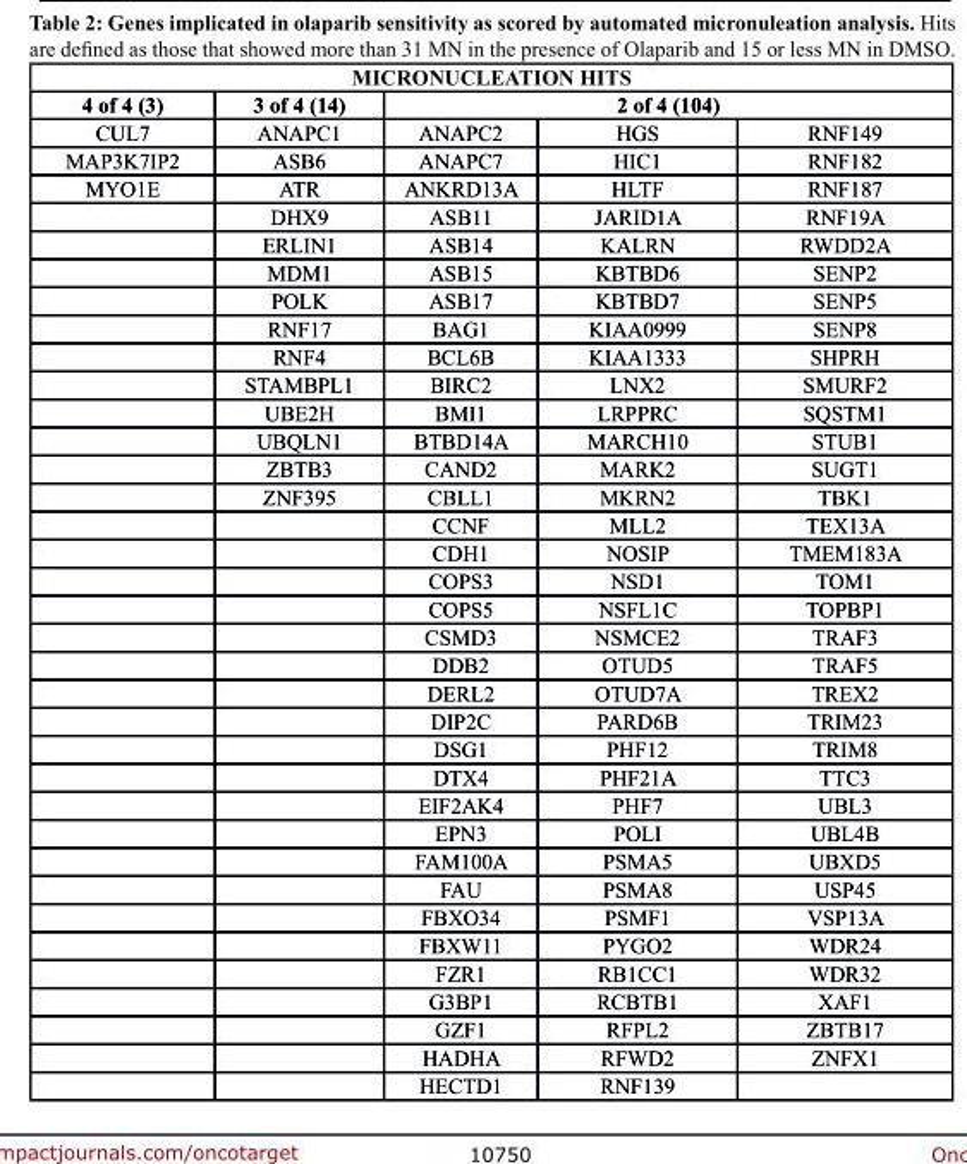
<table><thead><tr><td colspan="5">MIcronucleAtIon HIts</td></tr><tr><td rowspan="2">4 of 4 (3) CUL7</td><td rowspan="2">3 of 4 (14) ANAPC1</td><td colspan="3">2 of 4 (104)</td></tr><tr><td>ANAPC2</td><td>HGS</td><td>RNF149</td></tr></thead><tbody><tr><td>MAP3K7IP2</td><td>ASB6</td><td>ANAPC7</td><td>HIC1</td><td>RNF182</td></tr><tr><td rowspan="33">MYO1E</td><td>ATR</td><td>ANKRD13A</td><td>HLTF</td><td>RNF187</td></tr><tr><td>DHX9</td><td>ASB11</td><td>JARID1A</td><td>RNF19A</td></tr><tr><td>ERLIN1</td><td>ASB14</td><td>KALRN</td><td>RWDD2A</td></tr><tr><td>MDM1</td><td>ASB15</td><td>KBTBD6</td><td>SENP2</td></tr><tr><td>POLK</td><td>ASB17</td><td>KBTBD7</td><td>SENP5</td></tr><tr><td>RNF17</td><td>BAG1</td><td>KIAA0999</td><td>SENP8</td></tr><tr><td>RNF4</td><td>BCL6B</td><td>KIAA1333</td><td>SHPRH</td></tr><tr><td>STAMBPL1</td><td>BIRC2</td><td>LNX2</td><td>SMURF2</td></tr><tr><td>UBE2H</td><td>BMI1</td><td>LRPPRC</td><td>SQSTM1</td></tr><tr><td>UBQLN1</td><td>BTBD14A</td><td>MARCH10</td><td>STUB1</td></tr><tr><td>ZBTB3</td><td>CAND2</td><td>MARK2</td><td>SUGT1</td></tr><tr><td>ZNF395</td><td>CBLL1</td><td>MKRN2</td><td>TBK1</td></tr><tr><td></td><td>CCNF</td><td>MLL2</td><td>TEX13A</td></tr><tr><td></td><td>CDH1</td><td>NOSIP</td><td>TMEM183A</td></tr><tr><td></td><td>COPS3</td><td>NSD1</td><td>TOM1</td></tr><tr><td></td><td>COPS5</td><td>NSFL1C</td><td>TOPBP1</td></tr><tr><td></td><td>CSMD3</td><td>NSMCE2</td><td>TRAF3</td></tr><tr><td></td><td>DDB2</td><td>OTUD5</td><td>TRAF5</td></tr><tr><td></td><td>DERL2</td><td>OTUD7A</td><td>TREX2</td></tr><tr><td></td><td>DIP2C</td><td>PARD6B</td><td>TRIM23</td></tr><tr><td></td><td>DSG1</td><td>PHF12</td><td>TRIM8</td></tr><tr><td></td><td>DTX4</td><td>PHF21A</td><td>TTC3</td></tr><tr><td></td><td>EIF2AK4</td><td>PHF7</td><td>UBL3</td></tr><tr><td></td><td>EPN3</td><td>POLI</td><td>UBL4B</td></tr><tr><td></td><td>FAM100A</td><td>PSMA5</td><td>UBXD5</td></tr><tr><td></td><td>FAU</td><td>PSMA8</td><td>USP45</td></tr><tr><td></td><td>FBXO34</td><td>PSMF1</td><td>VSP13A</td></tr><tr><td></td><td>FBXW11</td><td>PYGO2</td><td>WDR24</td></tr><tr><td></td><td>FZR1</td><td>RB1CC1</td><td>WDR32</td></tr><tr><td></td><td>G3BP1</td><td>RCBTB1</td><td>XAF1</td></tr><tr><td></td><td>GZF1</td><td>RFPL2</td><td>ZBTB17</td></tr><tr><td></td><td>HADHA</td><td>RFWD2</td><td>ZNFX1</td></tr><tr><td></td><td>HECTD1</td><td>RNF139</td><td></td></tr></tbody></table>